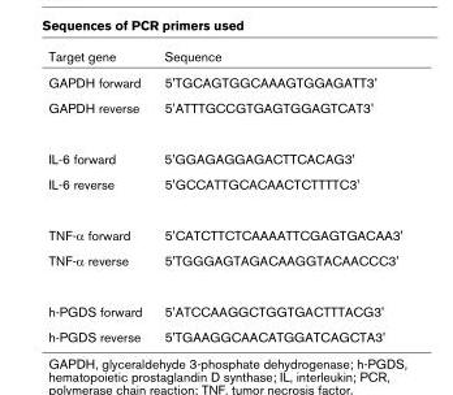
<table><thead><tr><td>Target gene</td><td>Sequence</td></tr></thead><tbody><tr><td>GAPDH forward</td><td>5&#x27;TGCAGTGGCAAAGTGGAGATT3&#x27;</td></tr><tr><td>GAPDH reverse</td><td>5&#x27;ATTTGCCGTGAGTGGAGTCAT3&#x27;</td></tr><tr><td>IL-6 forward</td><td>5&#x27;GGAGAGGAGACTTCACAG3&#x27;</td></tr><tr><td>IL-6 reverse</td><td>5&#x27;GCCATTGCACAACTCTTTTC3&#x27;</td></tr><tr><td>TNF-α forward</td><td>5&#x27;CATCTTCTCAAAATTCGAGTGACAA3&#x27;</td></tr><tr><td>TNF-α reverse</td><td>5&#x27;TGGGAGTAGACAAGGTACAACCC3&#x27;</td></tr><tr><td>h-PGDS forward</td><td>5&#x27;ATCCAAGGCTGGTGACTTTACG3&#x27;</td></tr><tr><td>h-PGDS reverse</td><td>5&#x27;TGAAGGCAACATGGATCAGCTA3&#x27;</td></tr></tbody></table>